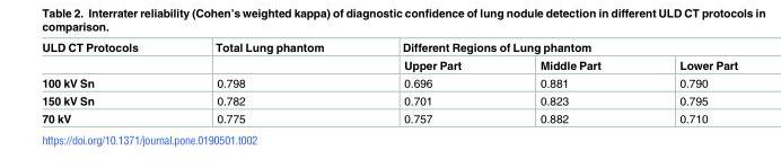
<table><thead><tr><td rowspan="2">ULD CT Protocols</td><td rowspan="2">Total Lung phantom</td><td colspan="3">Different Regions of Lung phantom</td></tr><tr><td>Upper Part</td><td>Middle Part</td><td>Lower Part</td></tr></thead><tbody><tr><td>100 kV Sn</td><td>0.798</td><td>0.696</td><td>0.881</td><td>0.790</td></tr><tr><td>150 kV Sn</td><td>0.782</td><td>0.701</td><td>0.823</td><td>0.795</td></tr><tr><td>70 kV</td><td>0.775</td><td>0.757</td><td>0.882</td><td>0.710</td></tr></tbody></table>